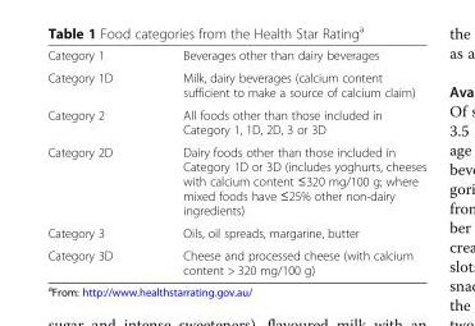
<table><tbody><tr><td>Category 1</td><td>Beverages other than dairy beverages</td></tr><tr><td>Category 1D</td><td>Milk, dairy beverages (calcium content sufficient to make a source of calcium claim)</td></tr><tr><td>Category 2</td><td>All foods other than those included in Category 1, 1D, 2D, 3 or 3D</td></tr><tr><td>Category 2D</td><td>Dairy foods other than those included in Category 1D or 3D (includes yoghurts, cheeses with calcium content ≤320 mg/100 g; where mixed foods have ≤25% other non-dairy ingredients)</td></tr><tr><td>Category 3</td><td>Oils, oil spreads, margarine, butter</td></tr><tr><td>Category 3D</td><td>Cheese and processed cheese (with calcium content &gt; 320 mg/100 g)</td></tr></tbody></table>